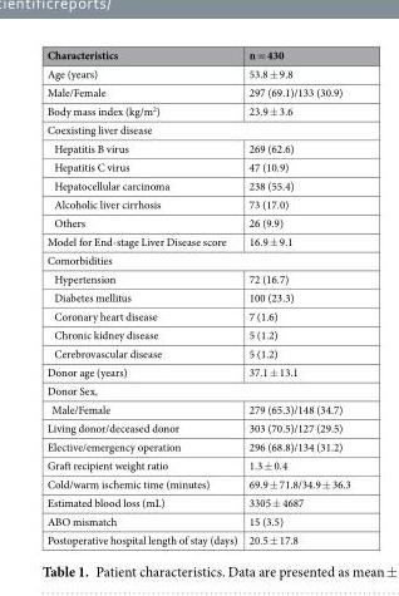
<table><thead><tr><td>Characteristics</td><td>n = 430</td></tr></thead><tbody><tr><td>Age (years)</td><td>53.8 ± 9.8</td></tr><tr><td>Male/Female</td><td>297 (69.1)/133 (30.9)</td></tr><tr><td>Body mass index (kg/m<sup>2</sup>)</td><td>23.9 ± 3.6</td></tr><tr><td colspan="2">Coexisting liver disease</td></tr><tr><td>Hepatitis B virus</td><td>269 (62.6)</td></tr><tr><td>Hepatitis C virus</td><td>47 (10.9)</td></tr><tr><td>Hepatocellular carcinoma</td><td>238 (55.4)</td></tr><tr><td>Alcoholic liver cirrhosis</td><td>73 (17.0)</td></tr><tr><td>Others</td><td>26 (9.9)</td></tr><tr><td>Model for End-stage Liver Disease score</td><td>16.9 ± 9.1</td></tr><tr><td colspan="2">Comorbidities</td></tr><tr><td>Hypertension</td><td>72 (16.7)</td></tr><tr><td>Diabetes mellitus</td><td>100 (23.3)</td></tr><tr><td>Coronary heart disease</td><td>7 (1.6)</td></tr><tr><td>Chronic kidney disease</td><td>5 (1.2)</td></tr><tr><td>Cerebrovascular disease</td><td>5 (1.2)</td></tr><tr><td>Donor age (years)</td><td>37.1 ± 13.1</td></tr><tr><td colspan="2">Donor Sex,</td></tr><tr><td>Male/Female</td><td>279 (65.3)/148 (34.7)</td></tr><tr><td>Living donor/deceased donor</td><td>303 (70.5)/127 (29.5)</td></tr><tr><td>Elective/emergency operation</td><td>296 (68.8)/134 (31.2)</td></tr><tr><td>Graft recipient weight ratio</td><td>1.3 ± 0.4</td></tr><tr><td>Cold/warm ischemic time (minutes)</td><td>69.9 ± 71.8/34.9 ± 36.3</td></tr><tr><td>Estimated blood loss (mL)</td><td>3305 ± 4687</td></tr><tr><td>ABO mismatch</td><td>15 (3.5)</td></tr><tr><td>Postoperative hospital length of stay (days)</td><td>20.5 ± 17.8</td></tr></tbody></table>